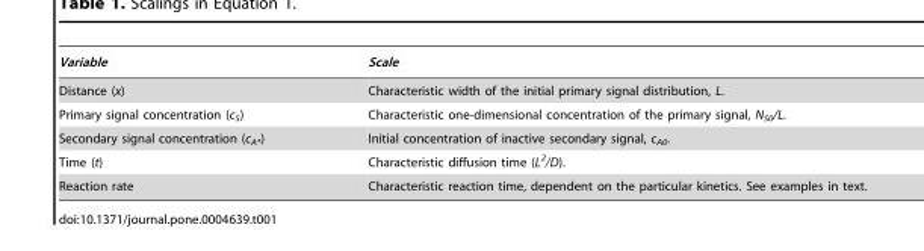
<table><thead><tr><td>Variable</td><td>Scale</td></tr></thead><tbody><tr><td>Distance (x)</td><td>Characteristic width of the initial primary signal distribution, L.</td></tr><tr><td>Primary signal concentration (c<sub>S</sub>)</td><td>Characteristic one-dimensional concentration of the primary signal, N<sub>S0</sub>/L.</td></tr><tr><td>Secondary signal concentration (c<sub>A*</sub>)</td><td>Initial concentration of inactive secondary signal, c<sub>A0</sub>.</td></tr><tr><td>Time (t)</td><td>Characteristic diffusion time (L<sup>2</sup>/D).</td></tr><tr><td>Reaction rate</td><td>Characteristic reaction time, dependent on the particular kinetics. See examples in text.</td></tr></tbody></table>